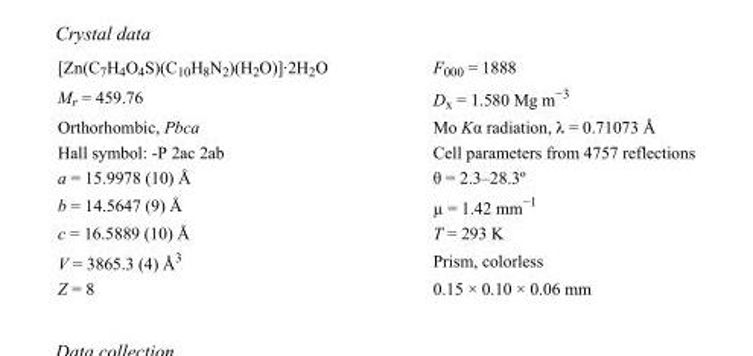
<table><tbody><tr><td>[Zn(C<sub>7</sub>H<sub>4</sub>O<sub>4</sub>S)(C<sub>10</sub>H<sub>8</sub>N<sub>2</sub>)(H<sub>2</sub>O)]·2H<sub>2</sub>O</td><td>F000 = 1888</td></tr><tr><td>M<sub>r</sub> = 459.76</td><td>D<sub>x</sub> = 1.580 Mg m<sup>−3</sup></td></tr><tr><td>Orthorhombic, Pbca</td><td>Mo Kα radiation, λ = 0.71073 Å</td></tr><tr><td>Hall symbol: -P 2ac 2ab</td><td>Cell parameters from 4757 reflections</td></tr><tr><td>a = 15.9978 (10) Å</td><td>θ = 2.3–28.3º</td></tr><tr><td>b = 14.5647 (9) Å</td><td>µ = 1.42 mm<sup>−1</sup></td></tr><tr><td>c = 16.5889 (10) Å</td><td>T = 293 K</td></tr><tr><td>V = 3865.3 (4) Å<sup>3</sup></td><td>Prism, colorless</td></tr><tr><td>Z = 8</td><td>0.15 × 0.10 × 0.06 mm</td></tr></tbody></table>